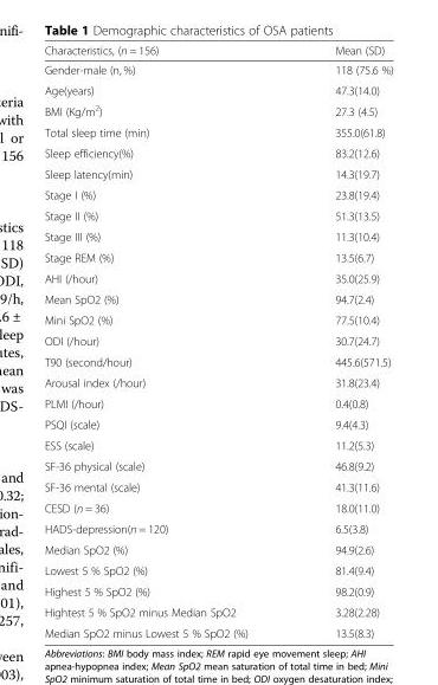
<table><thead><tr><td>Characteristics, (n = 156)</td><td>Mean (SD)</td></tr></thead><tbody><tr><td>Gender-male (n, %)</td><td>118 (75.6 %)</td></tr><tr><td>Age(years)</td><td>47.3(14.0)</td></tr><tr><td>BMI (Kg/m<sup>2</sup>)</td><td>27.3 (4.5)</td></tr><tr><td>Total sleep time (min)</td><td>355.0(61.8)</td></tr><tr><td>Sleep efficiency(%)</td><td>83.2(12.6)</td></tr><tr><td>Sleep latency(min)</td><td>14.3(19.7)</td></tr><tr><td>Stage I (%)</td><td>23.8(19.4)</td></tr><tr><td>Stage II (%)</td><td>51.3(13.5)</td></tr><tr><td>Stage III (%)</td><td>11.3(10.4)</td></tr><tr><td>Stage REM (%)</td><td>13.5(6.7)</td></tr><tr><td>AHI (/hour)</td><td>35.0(25.9)</td></tr><tr><td>Mean SpO2 (%)</td><td>94.7(2.4)</td></tr><tr><td>Mini SpO2 (%)</td><td>77.5(10.4)</td></tr><tr><td>ODI (/hour)</td><td>30.7(24.7)</td></tr><tr><td>T90 (second/hour)</td><td>445.6(571.5)</td></tr><tr><td>Arousal index (/hour)</td><td>31.8(23.4)</td></tr><tr><td>PLMI (/hour)</td><td>0.4(0.8)</td></tr><tr><td>PSQI (scale)</td><td>9.4(4.3)</td></tr><tr><td>ESS (scale)</td><td>11.2(5.3)</td></tr><tr><td>SF-36 physical (scale)</td><td>46.8(9.2)</td></tr><tr><td>SF-36 mental (scale)</td><td>41.3(11.6)</td></tr><tr><td>CESD (n = 36)</td><td>18.0(11.0)</td></tr><tr><td>HADS-depression(n = 120)</td><td>6.5(3.8)</td></tr><tr><td>Median SpO2 (%)</td><td>94.9(2.6)</td></tr><tr><td>Lowest 5 % SpO2 (%)</td><td>81.4(9.4)</td></tr><tr><td>Highest 5 % SpO2 (%)</td><td>98.2(0.9)</td></tr><tr><td>Hightest 5 % SpO2 minus Median SpO2</td><td>3.28(2.28)</td></tr><tr><td>Median SpO2 minus Lowest 5 % SpO2 (%)</td><td>13.5(8.3)</td></tr></tbody></table>